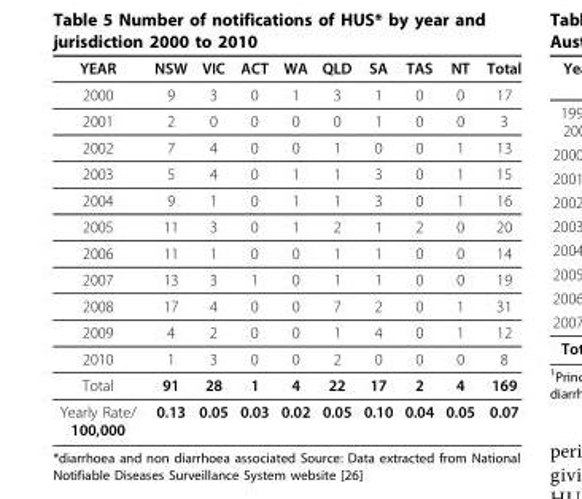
<table><thead><tr><td>YEAR</td><td>NSW</td><td>VIC</td><td>ACT</td><td>WA</td><td>QLD</td><td>SA</td><td>TAS</td><td>NT</td><td>Total</td></tr></thead><tbody><tr><td>2000</td><td>9</td><td>3</td><td>0</td><td>1</td><td>3</td><td>1</td><td>0</td><td>0</td><td>17</td></tr><tr><td>2001</td><td>2</td><td>0</td><td>0</td><td>0</td><td>0</td><td>1</td><td>0</td><td>0</td><td>3</td></tr><tr><td>2002</td><td>7</td><td>4</td><td>0</td><td>0</td><td>1</td><td>0</td><td>0</td><td>1</td><td>13</td></tr><tr><td>2003</td><td>5</td><td>4</td><td>0</td><td>1</td><td>1</td><td>3</td><td>0</td><td>1</td><td>15</td></tr><tr><td>2004</td><td>9</td><td>1</td><td>0</td><td>1</td><td>1</td><td>3</td><td>0</td><td>1</td><td>16</td></tr><tr><td>2005</td><td>11</td><td>3</td><td>0</td><td>1</td><td>2</td><td>1</td><td>2</td><td>0</td><td>20</td></tr><tr><td>2006</td><td>11</td><td>1</td><td>0</td><td>0</td><td>1</td><td>1</td><td>0</td><td>0</td><td>14</td></tr><tr><td>2007</td><td>13</td><td>3</td><td>1</td><td>0</td><td>1</td><td>1</td><td>0</td><td>0</td><td>19</td></tr><tr><td>2008</td><td>17</td><td>4</td><td>0</td><td>0</td><td>7</td><td>2</td><td>0</td><td>1</td><td>31</td></tr><tr><td>2009</td><td>4</td><td>2</td><td>0</td><td>0</td><td>1</td><td>4</td><td>0</td><td>1</td><td>12</td></tr><tr><td>2010</td><td>1</td><td>3</td><td>0</td><td>0</td><td>2</td><td>0</td><td>0</td><td>0</td><td>8</td></tr><tr><td>Total</td><td>91</td><td>28</td><td>1</td><td>4</td><td>22</td><td>17</td><td>2</td><td>4</td><td>169</td></tr><tr><td>Yearly Rate/ 100,000</td><td>0.13</td><td>0.05</td><td>0.03</td><td>0.02</td><td>0.05</td><td>0.10</td><td>0.04</td><td>0.05</td><td>0.07</td></tr></tbody></table>